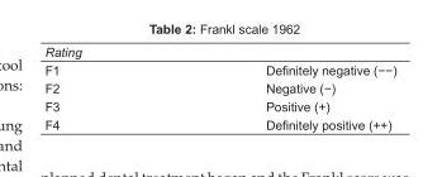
<table><tbody><tr><td colspan="2">Rating</td></tr><tr><td>F1</td><td>Definitely negative (−−)</td></tr><tr><td>F2</td><td>Negative (−)</td></tr><tr><td>F3</td><td>Positive (+)</td></tr><tr><td>F4</td><td>Definitely positive (++)</td></tr></tbody></table>